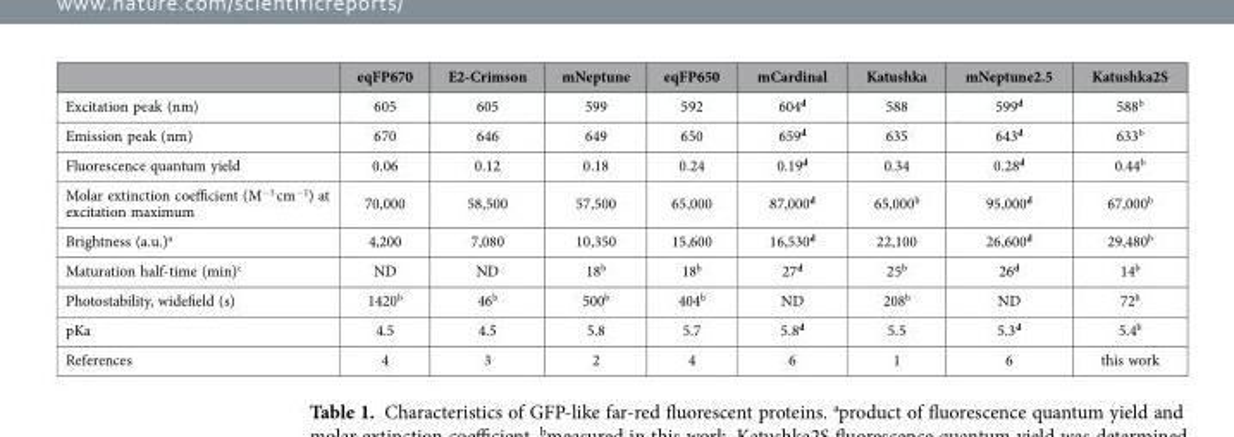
<table><thead><tr><td></td><td>eqFP670</td><td>E2-Crimson</td><td>mNeptune</td><td>eqFP650</td><td>mCardinal</td><td>Katushka</td><td>mNeptune2.5</td><td>Katushka2S</td></tr></thead><tbody><tr><td>Excitation peak (nm)</td><td>605</td><td>605</td><td>599</td><td>592</td><td>604<sup>d</sup></td><td>588</td><td>599<sup>d</sup></td><td>588<sup>b</sup></td></tr><tr><td>Emission peak (nm)</td><td>670</td><td>646</td><td>649</td><td>650</td><td>659<sup>d</sup></td><td>635</td><td>643<sup>d</sup></td><td>633<sup>b</sup></td></tr><tr><td>Fluorescence quantum yield</td><td>0.06</td><td>0.12</td><td>0.18</td><td>0.24</td><td>0.19<sup>d</sup></td><td>0.34</td><td>0.28<sup>d</sup></td><td>0.44<sup>b</sup></td></tr><tr><td>Molar extinction coefficient (М<sup>−1·</sup>cm<sup>−1</sup>) at excitation maximum</td><td>70,000</td><td>58,500</td><td>57,500</td><td>65,000</td><td>87,000<sup>d</sup></td><td>65,000<sup>b</sup></td><td>95,000<sup>d</sup></td><td>67,000<sup>b</sup></td></tr><tr><td>Brightness (a.u.)<sup>a</sup></td><td>4,200</td><td>7,080</td><td>10,350</td><td>15,600</td><td>16,530<sup>d</sup></td><td>22,100</td><td>26,600<sup>d</sup></td><td>29,480<sup>b</sup></td></tr><tr><td>Maturation half-time (min)<sup>c</sup></td><td>ND</td><td>ND</td><td>18<sup>b</sup></td><td>18<sup>b</sup></td><td>27<sup>d</sup></td><td>25<sup>b</sup></td><td>26<sup>d</sup></td><td>14<sup>b</sup></td></tr><tr><td>Photostability, widefield (s)</td><td>1420<sup>b</sup></td><td>46<sup>b</sup></td><td>500<sup>b</sup></td><td>404<sup>b</sup></td><td>ND</td><td>208<sup>b</sup></td><td>ND</td><td>72<sup>b</sup></td></tr><tr><td>pKa</td><td>4.5</td><td>4.5</td><td>5.8</td><td>5.7</td><td>5.8<sup>d</sup></td><td>5.5</td><td>5.3<sup>d</sup></td><td>5.4<sup>b</sup></td></tr><tr><td>References</td><td>4</td><td>3</td><td>2</td><td>4</td><td>6</td><td>1</td><td>6</td><td>this work</td></tr></tbody></table>